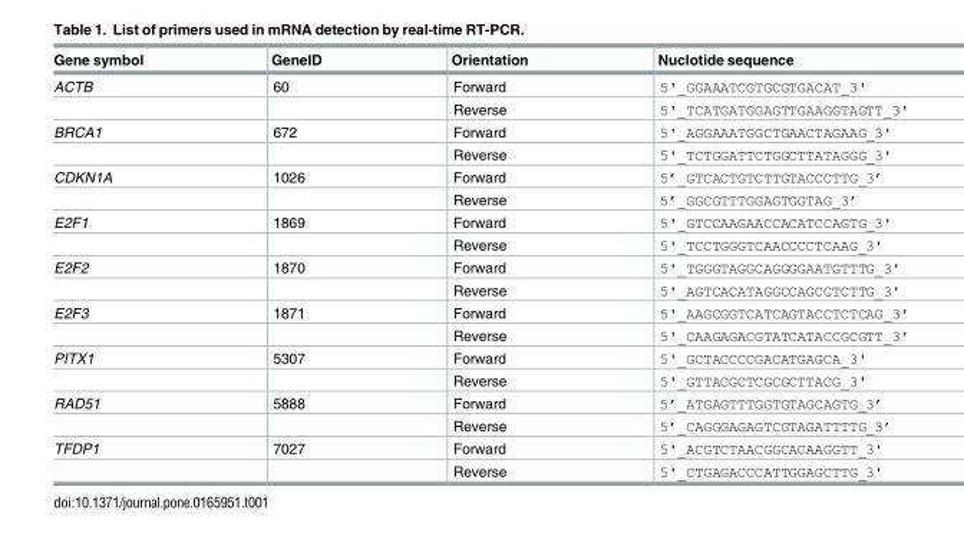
<table><thead><tr><td>Gene symbol</td><td>GeneID</td><td>Orientation</td><td>Nuclotide sequence</td></tr></thead><tbody><tr><td rowspan="2">ACTB</td><td>60</td><td>Forward</td><td>5&#x27;_GGAAATCGTGCGTGACAT_3&#x27;</td></tr><tr><td></td><td>Reverse</td><td>5&#x27;_TCATGATGGAGTTGAAGGTAGTT_3&#x27;</td></tr><tr><td rowspan="2">BRCA1</td><td>672</td><td>Forward</td><td>5&#x27;_AGGAAATGGCTGAACTAGAAG_3&#x27;</td></tr><tr><td></td><td>Reverse</td><td>5&#x27;_TCTGGATTCTGGCTTATAGGG_3&#x27;</td></tr><tr><td rowspan="2">CDKN1A</td><td>1026</td><td>Forward</td><td>5’_GTCACTGTCTTGTACCCTTG_3’</td></tr><tr><td></td><td>Reverse</td><td>5’_GGCGTTTGGAGTGGTAG_3’</td></tr><tr><td rowspan="2">E2F1</td><td>1869</td><td>Forward</td><td>5&#x27;_GTCCAAGAACCACATCCAGTG_3&#x27;</td></tr><tr><td></td><td>Reverse</td><td>5&#x27;_TCCTGGGTCAACCCCTCAAG_3&#x27;</td></tr><tr><td rowspan="2">E2F2</td><td>1870</td><td>Forward</td><td>5&#x27;_TGGGTAGGCAGGGGAATGTTTG_3&#x27;</td></tr><tr><td></td><td>Reverse</td><td>5&#x27;_AGTCACATAGGCCAGCCTCTTG_3&#x27;</td></tr><tr><td rowspan="2">E2F3</td><td>1871</td><td>Forward</td><td>5&#x27;_AAGCGGTCATCAGTACCTCTCAG_3&#x27;</td></tr><tr><td></td><td>Reverse</td><td>5&#x27;_CAAGAGACGTATCATACCGCGTT_3&#x27;</td></tr><tr><td rowspan="2">PITX1</td><td>5307</td><td>Forward</td><td>5&#x27;_GCTACCCCGACATGAGCA_3&#x27;</td></tr><tr><td></td><td>Reverse</td><td>5&#x27;_GTTACGCTCGCGCTTACG_3&#x27;</td></tr><tr><td rowspan="2">RAD51</td><td>5888</td><td>Forward</td><td>5’_ATGAGTTTGGTGTAGCAGTG_3’</td></tr><tr><td></td><td>Reverse</td><td>5’_CAGGGAGAGTCGTAGATTTTG_3’</td></tr><tr><td rowspan="2">TFDP1</td><td>7027</td><td>Forward</td><td>5&#x27;_ACGTCTAACGGCACAAGGTT_3&#x27;</td></tr><tr><td></td><td>Reverse</td><td>5&#x27;_CTGAGACCCATTGGAGCTTG_3&#x27;</td></tr></tbody></table>